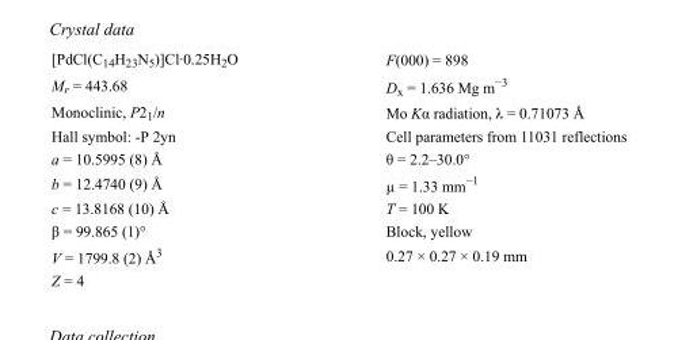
<table><tbody><tr><td>[PdCl(C<sub>14</sub>H<sub>23</sub>N<sub>5</sub>)]Cl·0.25H<sub>2</sub>O</td><td>F(000) = 898</td></tr><tr><td>M<sub>r</sub> = 443.68</td><td>D<sub>x</sub> = 1.636 Mg m<sup>−3</sup></td></tr><tr><td>Monoclinic, P2<sub>1</sub>/n</td><td>Mo Kα radiation, λ = 0.71073 Å</td></tr><tr><td>Hall symbol: -P 2yn</td><td>Cell parameters from 11031 reflections</td></tr><tr><td>a = 10.5995 (8) Å</td><td>θ = 2.2–30.0°</td></tr><tr><td>b = 12.4740 (9) Å</td><td>µ = 1.33 mm<sup>−1</sup></td></tr><tr><td>c = 13.8168 (10) Å</td><td>T = 100 K</td></tr><tr><td>β = 99.865 (1)°</td><td>Block, yellow</td></tr><tr><td>V = 1799.8 (2) Å<sup>3</sup></td><td>0.27 × 0.27 × 0.19 mm</td></tr><tr><td>Z = 4</td><td></td></tr></tbody></table>